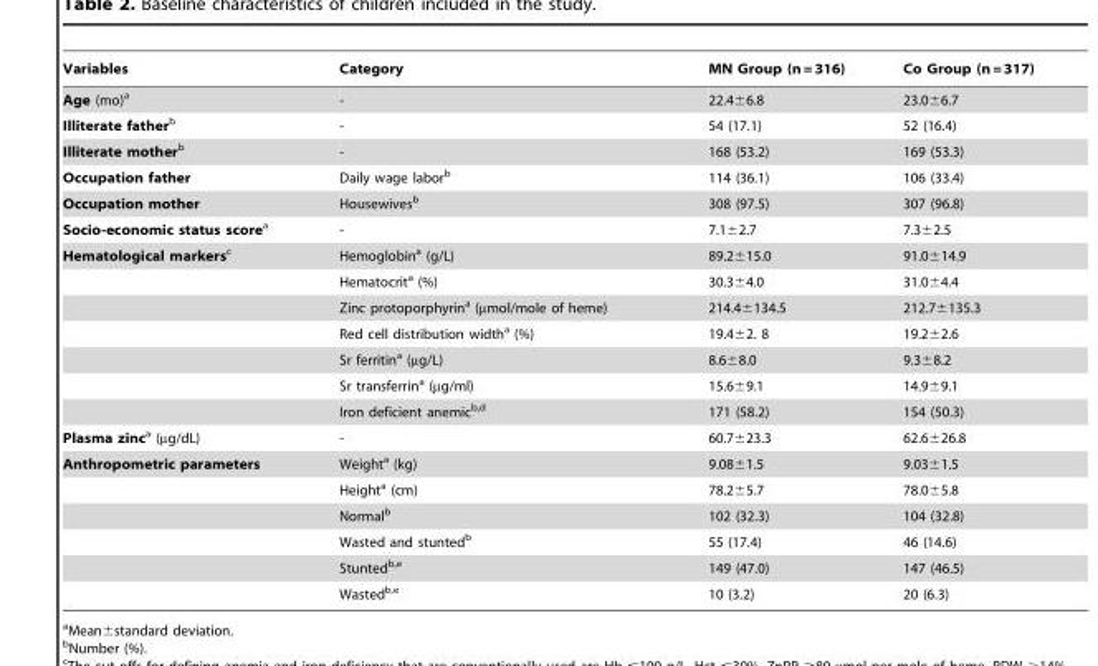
<table><thead><tr><td>Variables</td><td>Category</td><td>MN Group (n = 316)</td><td>Co Group (n = 317)</td></tr></thead><tbody><tr><td>Age (mo)<sup>a</sup></td><td>-</td><td>22.4±6.8</td><td>23.0±6.7</td></tr><tr><td>Illiterate fatherb</td><td>-</td><td>54 (17.1)</td><td>52 (16.4)</td></tr><tr><td>Illiterate motherb</td><td>-</td><td>168 (53.2)</td><td>169 (53.3)</td></tr><tr><td>Occupation father</td><td>Daily wage labor<sup>b</sup></td><td>114 (36.1)</td><td>106 (33.4)</td></tr><tr><td>Occupation mother</td><td>Housewives<sup>b</sup></td><td>308 (97.5)</td><td>307 (96.8)</td></tr><tr><td>Socio-economic status scorea</td><td>-</td><td>7.1±2.7</td><td>7.3±2.5</td></tr><tr><td rowspan="7">Hematological markersc</td><td>Hemoglobin<sup>a</sup> (g/L)</td><td>89.2±15.0</td><td>91.0±14.9</td></tr><tr><td>Hematocrit<sup>a</sup> (%)</td><td>30.3±4.0</td><td>31.0±4.4</td></tr><tr><td>Zinc protoporphyrin<sup>a</sup> (µmol/mole of heme)</td><td>214.4±134.5</td><td>212.7±135.3</td></tr><tr><td>Red cell distribution width<sup>a</sup> (%)</td><td>19.4±2. 8</td><td>19.2±2.6</td></tr><tr><td>Sr ferritin<sup>a</sup> (µg/L)</td><td>8.6±8.0</td><td>9.3±8.2</td></tr><tr><td>Sr transferrin<sup>a</sup> (µg/ml)</td><td>15.6±9.1</td><td>14.9±9.1</td></tr><tr><td>Iron deficient anemic<sup>b,</sup>d</td><td>171 (58.2)</td><td>154 (50.3)</td></tr><tr><td>Plasma zinca (µg/dL)</td><td>-</td><td>60.7±23.3</td><td>62.6±26.8</td></tr><tr><td rowspan="6">Anthropometric parameters</td><td>Weight<sup>a</sup> (kg)</td><td>9.08±1.5</td><td>9.03±1.5</td></tr><tr><td>Height<sup>a</sup> (cm)</td><td>78.2±5.7</td><td>78.0±5.8</td></tr><tr><td>Normal<sup>b</sup></td><td>102 (32.3)</td><td>104 (32.8)</td></tr><tr><td>Wasted and stunted<sup>b</sup></td><td>55 (17.4)</td><td>46 (14.6)</td></tr><tr><td>Stunted<sup>b,</sup>e</td><td>149 (47.0)</td><td>147 (46.5)</td></tr><tr><td>Wasted<sup>b,</sup>e</td><td>10 (3.2)</td><td>20 (6.3)</td></tr></tbody></table>